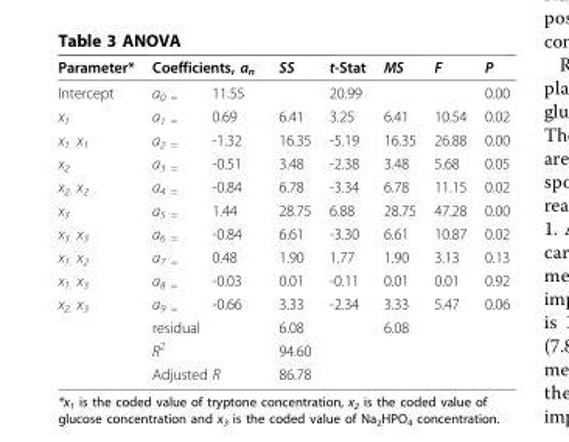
<table><thead><tr><td rowspan="2">Parameter* Intercept</td><td colspan="2">Coefficients, a<sub>n</sub></td><td rowspan="2">SS</td><td rowspan="2">t-Stat 20.99</td><td rowspan="2">MS</td><td rowspan="2">F</td><td rowspan="2">P 0.00</td></tr><tr><td>a<sub>0 =</sub></td><td>11.55</td></tr></thead><tbody><tr><td>x<sub>1</sub></td><td>a<sub>1 =</sub></td><td>0.69</td><td>6.41</td><td>3.25</td><td>6.41</td><td>10.54</td><td>0.02</td></tr><tr><td>x<sub>1.</sub> x<sub>1</sub></td><td>a<sub>2 =</sub></td><td>-1.32</td><td>16.35</td><td>-5.19</td><td>16.35</td><td>26.88</td><td>0.00</td></tr><tr><td>x<sub>2</sub></td><td>a<sub>3 =</sub></td><td>-0.51</td><td>3.48</td><td>-2.38</td><td>3.48</td><td>5.68</td><td>0.05</td></tr><tr><td>x<sub>2.</sub> x<sub>2</sub></td><td>a<sub>4 =</sub></td><td>-0.84</td><td>6.78</td><td>-3.34</td><td>6.78</td><td>11.15</td><td>0.02</td></tr><tr><td>x<sub>3</sub></td><td>a<sub>5 =</sub></td><td>1.44</td><td>28.75</td><td>6.88</td><td>28.75</td><td>47.28</td><td>0.00</td></tr><tr><td>x<sub>3.</sub> x<sub>3</sub></td><td>a<sub>6 =</sub></td><td>-0.84</td><td>6.61</td><td>-3.30</td><td>6.61</td><td>10.87</td><td>0.02</td></tr><tr><td>x<sub>1.</sub> x<sub>2</sub></td><td>a<sub>7 =</sub></td><td>0.48</td><td>1.90</td><td>1.77</td><td>1.90</td><td>3.13</td><td>0.13</td></tr><tr><td>x<sub>1.</sub> x<sub>3</sub></td><td>a<sub>8 =</sub></td><td>-0.03</td><td>0.01</td><td>-0.11</td><td>0.01</td><td>0.01</td><td>0.92</td></tr><tr><td rowspan="4">x<sub>2.</sub> x<sub>3</sub></td><td>a<sub>9 =</sub></td><td>-0.66</td><td>3.33</td><td>-2.34</td><td>3.33</td><td>5.47</td><td>0.06</td></tr><tr><td colspan="2">residual</td><td>6.08</td><td></td><td>6.08</td><td></td><td></td></tr><tr><td colspan="2">R<sup>2</sup></td><td>94.60</td><td></td><td></td><td></td><td></td></tr><tr><td colspan="2">Adjusted R</td><td>86.78</td><td></td><td></td><td></td><td></td></tr></tbody></table>